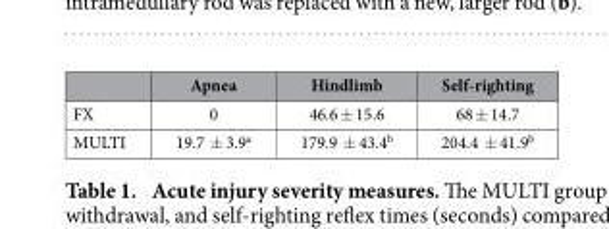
<table><thead><tr><td></td><td>Apnea</td><td>Hindlimb</td><td>Self-righting</td></tr></thead><tbody><tr><td>FX</td><td>0</td><td>46.6 ± 15.6</td><td>68 ± 14.7</td></tr><tr><td>MULTI</td><td>19.7 ± 3.9<sup>a</sup></td><td>179.9 ± 43.4<sup>b</sup></td><td>204.4 ± 41.9<sup>b</sup></td></tr></tbody></table>